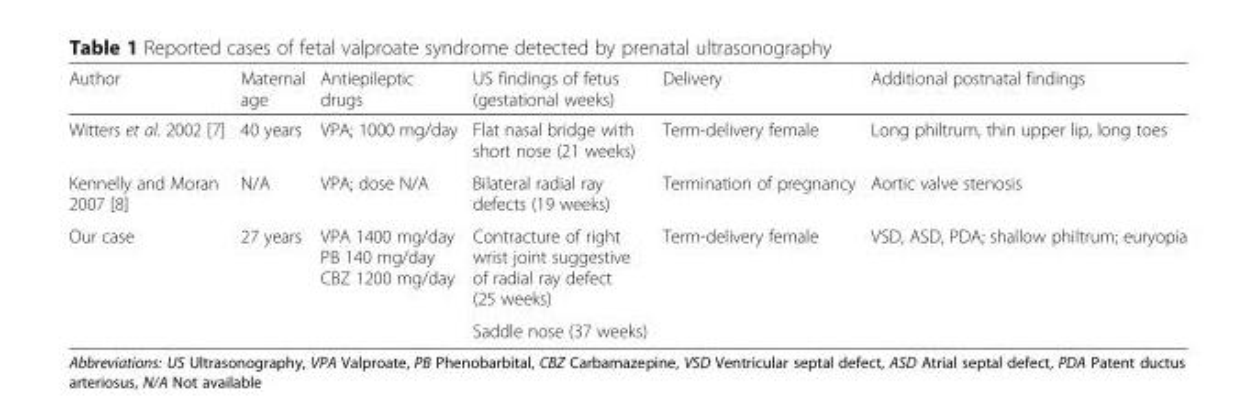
<table><thead><tr><td>Author</td><td>Maternal age</td><td>Antiepileptic drugs</td><td>US findings of fetus (gestational weeks)</td><td>Delivery</td><td>Additional postnatal findings</td></tr></thead><tbody><tr><td>Witters et al. 2002 [7]</td><td>40 years</td><td>VPA; 1000 mg/day</td><td>Flat nasal bridge with short nose (21 weeks)</td><td>Term-delivery female</td><td>Long philtrum, thin upper lip, long toes</td></tr><tr><td>Kennelly and Moran 2007 [8]</td><td>N/A</td><td>VPA; dose N/A</td><td>Bilateral radial ray defects (19 weeks)</td><td>Termination of pregnancy</td><td>Aortic valve stenosis</td></tr><tr><td rowspan="2">Our case</td><td rowspan="2">27 years</td><td rowspan="2">VPA 1400 mg/day PB 140 mg/day CBZ 1200 mg/day</td><td>Contracture of right wrist joint suggestive of radial ray defect (25 weeks)</td><td rowspan="2">Term-delivery female</td><td rowspan="2">VSD, ASD, PDA; shallow philtrum; euryopia</td></tr><tr><td>Saddle nose (37 weeks)</td></tr></tbody></table>